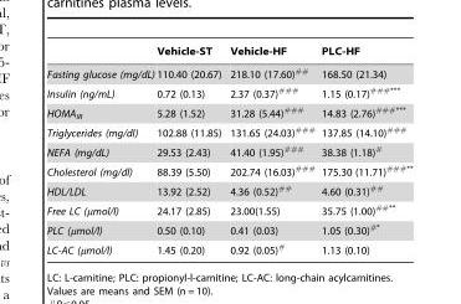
<table><thead><tr><td></td><td>Vehicle-ST</td><td>Vehicle-HF</td><td>PLC-HF</td></tr></thead><tbody><tr><td>Fasting glucose (mg/dL)</td><td>110.40 (20.67)</td><td>218.10 (17.60)##</td><td>168.50 (21.34)</td></tr><tr><td>Insulin (ng/mL)</td><td>0.72 (0.13)</td><td>2.37 (0.37)###</td><td>1.15 (0.17)###***</td></tr><tr><td>HOMA<sub>IR</sub></td><td>5.28 (1.52)</td><td>31.28 (5.44)###</td><td>14.83 (2.76)###***</td></tr><tr><td>Triglycerides (mg/dl)</td><td>102.88 (11.85)</td><td>131.65 (24.03)###</td><td>137.85 (14.10)###</td></tr><tr><td>NEFA (mg/dL)</td><td>29.53 (2.43)</td><td>41.40 (1.95)###</td><td>38.38 (1.18)#</td></tr><tr><td>Cholesterol (mg/dl)</td><td>88.39 (5.50)</td><td>202.74 (16.03)###</td><td>175.30 (11.71)###**</td></tr><tr><td>HDL/LDL</td><td>13.92 (2.52)</td><td>4.36 (0.52)##</td><td>4.60 (0.31)##</td></tr><tr><td>Free LC (µmol/l)</td><td>24.17 (2.85)</td><td>23.00(1.55)</td><td>35.75 (1.00)##**</td></tr><tr><td>PLC (µmol/l)</td><td>0.50 (0.10)</td><td>0.41 (0.03)</td><td>1.05 (0.30)#*</td></tr><tr><td>LC-AC (µmol/l)</td><td>1.45 (0.20)</td><td>0.92 (0.05)#</td><td>1.13 (0.10)</td></tr></tbody></table>